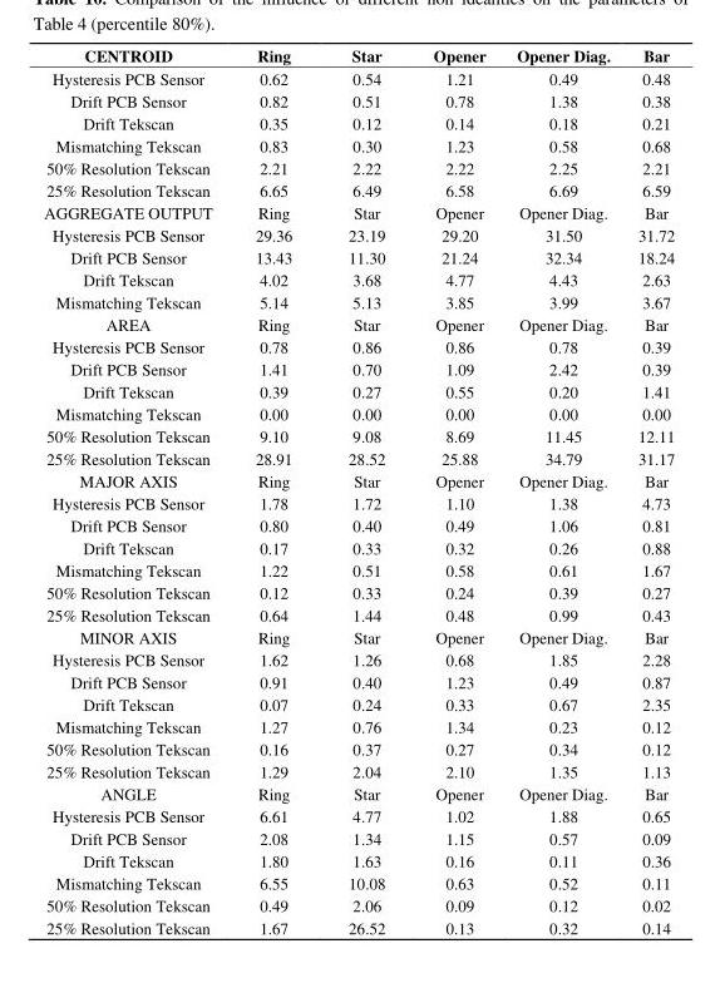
<table><thead><tr><td>CENTROID</td><td>Ring</td><td>Star</td><td>Opener</td><td>Opener Diag.</td><td>Bar</td></tr></thead><tbody><tr><td>Hysteresis PCB Sensor</td><td>0.62</td><td>0.54</td><td>1.21</td><td>0.49</td><td>0.48</td></tr><tr><td>Drift PCB Sensor</td><td>0.82</td><td>0.51</td><td>0.78</td><td>1.38</td><td>0.38</td></tr><tr><td>Drift Tekscan</td><td>0.35</td><td>0.12</td><td>0.14</td><td>0.18</td><td>0.21</td></tr><tr><td>Mismatching Tekscan</td><td>0.83</td><td>0.30</td><td>1.23</td><td>0.58</td><td>0.68</td></tr><tr><td>50% Resolution Tekscan</td><td>2.21</td><td>2.22</td><td>2.22</td><td>2.25</td><td>2.21</td></tr><tr><td>25% Resolution Tekscan</td><td>6.65</td><td>6.49</td><td>6.58</td><td>6.69</td><td>6.59</td></tr><tr><td>AGGREGATE OUTPUT</td><td>Ring</td><td>Star</td><td>Opener</td><td>Opener Diag.</td><td>Bar</td></tr><tr><td>Hysteresis PCB Sensor</td><td>29.36</td><td>23.19</td><td>29.20</td><td>31.50</td><td>31.72</td></tr><tr><td>Drift PCB Sensor</td><td>13.43</td><td>11.30</td><td>21.24</td><td>32.34</td><td>18.24</td></tr><tr><td>Drift Tekscan</td><td>4.02</td><td>3.68</td><td>4.77</td><td>4.43</td><td>2.63</td></tr><tr><td>Mismatching Tekscan</td><td>5.14</td><td>5.13</td><td>3.85</td><td>3.99</td><td>3.67</td></tr><tr><td>AREA</td><td>Ring</td><td>Star</td><td>Opener</td><td>Opener Diag.</td><td>Bar</td></tr><tr><td>Hysteresis PCB Sensor</td><td>0.78</td><td>0.86</td><td>0.86</td><td>0.78</td><td>0.39</td></tr><tr><td>Drift PCB Sensor</td><td>1.41</td><td>0.70</td><td>1.09</td><td>2.42</td><td>0.39</td></tr><tr><td>Drift Tekscan</td><td>0.39</td><td>0.27</td><td>0.55</td><td>0.20</td><td>1.41</td></tr><tr><td>Mismatching Tekscan</td><td>0.00</td><td>0.00</td><td>0.00</td><td>0.00</td><td>0.00</td></tr><tr><td>50% Resolution Tekscan</td><td>9.10</td><td>9.08</td><td>8.69</td><td>11.45</td><td>12.11</td></tr><tr><td>25% Resolution Tekscan</td><td>28.91</td><td>28.52</td><td>25.88</td><td>34.79</td><td>31.17</td></tr><tr><td>MAJOR AXIS</td><td>Ring</td><td>Star</td><td>Opener</td><td>Opener Diag.</td><td>Bar</td></tr><tr><td>Hysteresis PCB Sensor</td><td>1.78</td><td>1.72</td><td>1.10</td><td>1.38</td><td>4.73</td></tr><tr><td>Drift PCB Sensor</td><td>0.80</td><td>0.40</td><td>0.49</td><td>1.06</td><td>0.81</td></tr><tr><td>Drift Tekscan</td><td>0.17</td><td>0.33</td><td>0.32</td><td>0.26</td><td>0.88</td></tr><tr><td>Mismatching Tekscan</td><td>1.22</td><td>0.51</td><td>0.58</td><td>0.61</td><td>1.67</td></tr><tr><td>50% Resolution Tekscan</td><td>0.12</td><td>0.33</td><td>0.24</td><td>0.39</td><td>0.27</td></tr><tr><td>25% Resolution Tekscan</td><td>0.64</td><td>1.44</td><td>0.48</td><td>0.99</td><td>0.43</td></tr><tr><td>MINOR AXIS</td><td>Ring</td><td>Star</td><td>Opener</td><td>Opener Diag.</td><td>Bar</td></tr><tr><td>Hysteresis PCB Sensor</td><td>1.62</td><td>1.26</td><td>0.68</td><td>1.85</td><td>2.28</td></tr><tr><td>Drift PCB Sensor</td><td>0.91</td><td>0.40</td><td>1.23</td><td>0.49</td><td>0.87</td></tr><tr><td>Drift Tekscan</td><td>0.07</td><td>0.24</td><td>0.33</td><td>0.67</td><td>2.35</td></tr><tr><td>Mismatching Tekscan</td><td>1.27</td><td>0.76</td><td>1.34</td><td>0.23</td><td>0.12</td></tr><tr><td>50% Resolution Tekscan</td><td>0.16</td><td>0.37</td><td>0.27</td><td>0.34</td><td>0.12</td></tr><tr><td>25% Resolution Tekscan</td><td>1.29</td><td>2.04</td><td>2.10</td><td>1.35</td><td>1.13</td></tr><tr><td>ANGLE</td><td>Ring</td><td>Star</td><td>Opener</td><td>Opener Diag.</td><td>Bar</td></tr><tr><td>Hysteresis PCB Sensor</td><td>6.61</td><td>4.77</td><td>1.02</td><td>1.88</td><td>0.65</td></tr><tr><td>Drift PCB Sensor</td><td>2.08</td><td>1.34</td><td>1.15</td><td>0.57</td><td>0.09</td></tr><tr><td>Drift Tekscan</td><td>1.80</td><td>1.63</td><td>0.16</td><td>0.11</td><td>0.36</td></tr><tr><td>Mismatching Tekscan</td><td>6.55</td><td>10.08</td><td>0.63</td><td>0.52</td><td>0.11</td></tr><tr><td>50% Resolution Tekscan</td><td>0.49</td><td>2.06</td><td>0.09</td><td>0.12</td><td>0.02</td></tr><tr><td>25% Resolution Tekscan</td><td>1.67</td><td>26.52</td><td>0.13</td><td>0.32</td><td>0.14</td></tr></tbody></table>